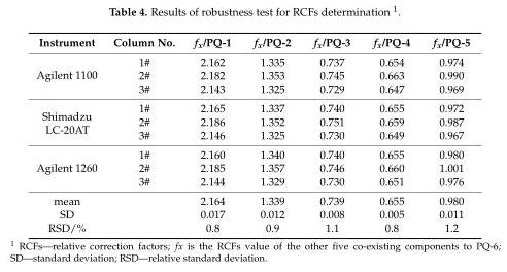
<table><thead><tr><td>Instrument</td><td>Column No.</td><td>f<sub>x</sub>/PQ-1</td><td>f<sub>x</sub>/PQ-2</td><td>f<sub>x</sub>/PQ-3</td><td>f<sub>x</sub>/PQ-4</td><td>f<sub>x</sub>/PQ-5</td></tr></thead><tbody><tr><td rowspan="3">Agilent 1100</td><td>1#</td><td>2.162</td><td>1.335</td><td>0.737</td><td>0.654</td><td>0.974</td></tr><tr><td>2#</td><td>2.182</td><td>1.353</td><td>0.745</td><td>0.663</td><td>0.990</td></tr><tr><td>3#</td><td>2.143</td><td>1.325</td><td>0.729</td><td>0.647</td><td>0.969</td></tr><tr><td rowspan="3">Shimadzu LC-20AT</td><td>1#</td><td>2.165</td><td>1.337</td><td>0.740</td><td>0.655</td><td>0.972</td></tr><tr><td>2#</td><td>2.186</td><td>1.352</td><td>0.751</td><td>0.659</td><td>0.987</td></tr><tr><td>3#</td><td>2.146</td><td>1.325</td><td>0.730</td><td>0.649</td><td>0.967</td></tr><tr><td rowspan="3">Agilent 1260</td><td>1#</td><td>2.160</td><td>1.340</td><td>0.740</td><td>0.655</td><td>0.980</td></tr><tr><td>2#</td><td>2.185</td><td>1.357</td><td>0.746</td><td>0.660</td><td>1.001</td></tr><tr><td>3#</td><td>2.144</td><td>1.329</td><td>0.730</td><td>0.651</td><td>0.976</td></tr><tr><td>mean</td><td></td><td>2.164</td><td>1.339</td><td>0.739</td><td>0.655</td><td>0.980</td></tr><tr><td>SD</td><td></td><td>0.017</td><td>0.012</td><td>0.008</td><td>0.005</td><td>0.011</td></tr><tr><td>RSD/%</td><td></td><td>0.8</td><td>0.9</td><td>1.1</td><td>0.8</td><td>1.2</td></tr></tbody></table>